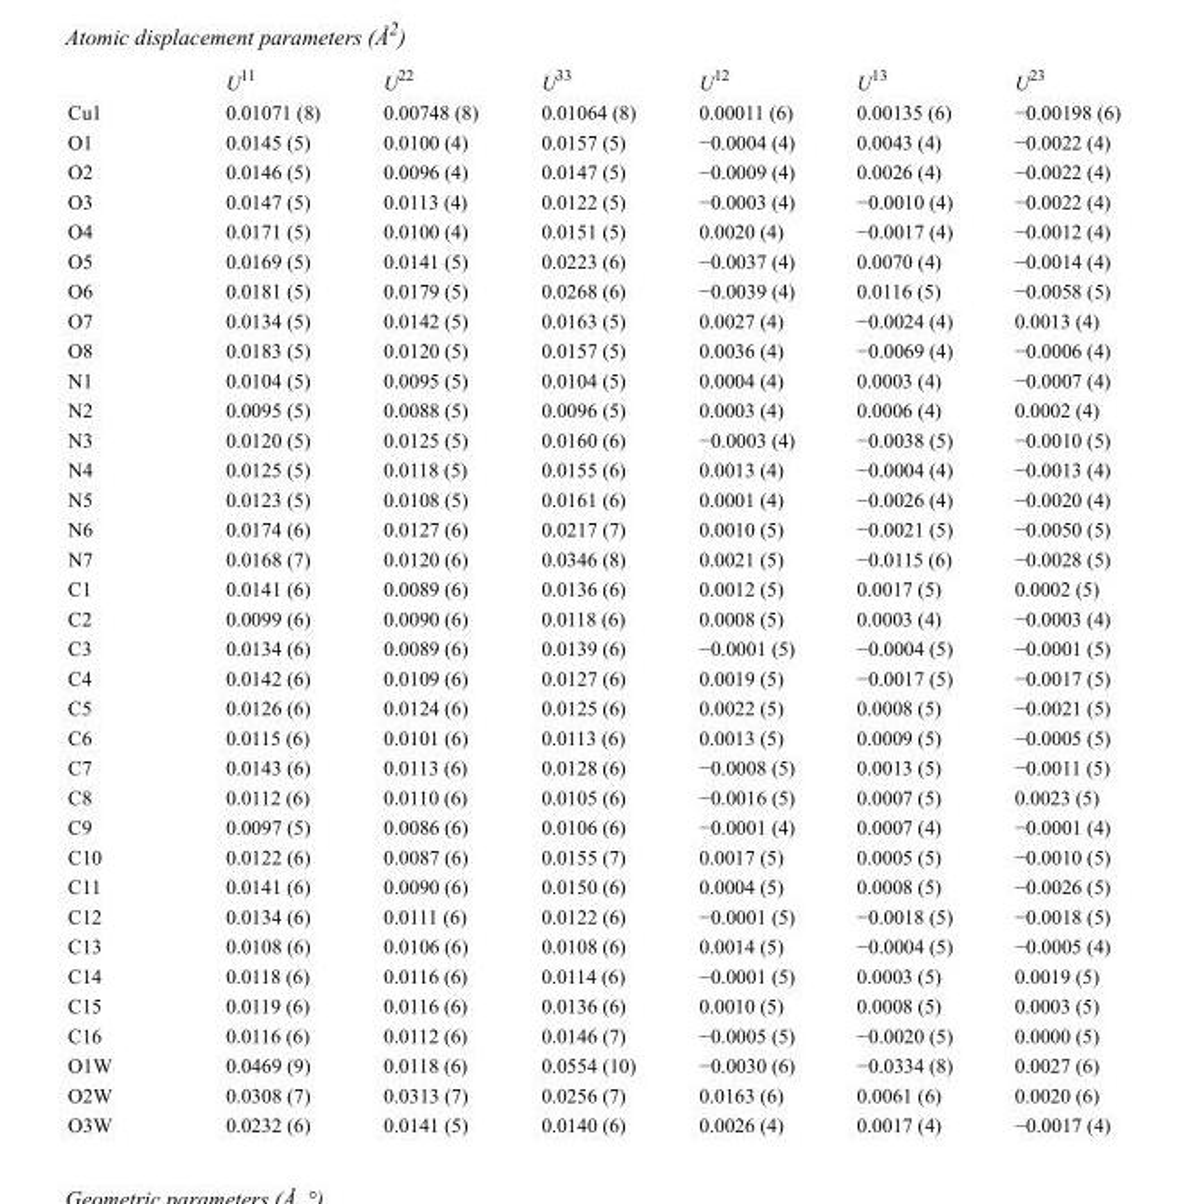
<table><thead><tr><td></td><td>U<sup>11</sup></td><td>U<sup>22</sup></td><td>U<sup>33</sup></td><td>U<sup>12</sup></td><td>U<sup>13</sup></td><td>U<sup>23</sup></td></tr></thead><tbody><tr><td>Cu1</td><td>0.01071 (8)</td><td>0.00748 (8)</td><td>0.01064 (8)</td><td>0.00011 (6)</td><td>0.00135 (6)</td><td>−0.00198 (6)</td></tr><tr><td>O1</td><td>0.0145 (5)</td><td>0.0100 (4)</td><td>0.0157 (5)</td><td>−0.0004 (4)</td><td>0.0043 (4)</td><td>−0.0022 (4)</td></tr><tr><td>O2</td><td>0.0146 (5)</td><td>0.0096 (4)</td><td>0.0147 (5)</td><td>−0.0009 (4)</td><td>0.0026 (4)</td><td>−0.0022 (4)</td></tr><tr><td>O3</td><td>0.0147 (5)</td><td>0.0113 (4)</td><td>0.0122 (5)</td><td>−0.0003 (4)</td><td>−0.0010 (4)</td><td>−0.0022 (4)</td></tr><tr><td>O4</td><td>0.0171 (5)</td><td>0.0100 (4)</td><td>0.0151 (5)</td><td>0.0020 (4)</td><td>−0.0017 (4)</td><td>−0.0012 (4)</td></tr><tr><td>O5</td><td>0.0169 (5)</td><td>0.0141 (5)</td><td>0.0223 (6)</td><td>−0.0037 (4)</td><td>0.0070 (4)</td><td>−0.0014 (4)</td></tr><tr><td>O6</td><td>0.0181 (5)</td><td>0.0179 (5)</td><td>0.0268 (6)</td><td>−0.0039 (4)</td><td>0.0116 (5)</td><td>−0.0058 (5)</td></tr><tr><td>O7</td><td>0.0134 (5)</td><td>0.0142 (5)</td><td>0.0163 (5)</td><td>0.0027 (4)</td><td>−0.0024 (4)</td><td>0.0013 (4)</td></tr><tr><td>O8</td><td>0.0183 (5)</td><td>0.0120 (5)</td><td>0.0157 (5)</td><td>0.0036 (4)</td><td>−0.0069 (4)</td><td>−0.0006 (4)</td></tr><tr><td>N1</td><td>0.0104 (5)</td><td>0.0095 (5)</td><td>0.0104 (5)</td><td>0.0004 (4)</td><td>0.0003 (4)</td><td>−0.0007 (4)</td></tr><tr><td>N2</td><td>0.0095 (5)</td><td>0.0088 (5)</td><td>0.0096 (5)</td><td>0.0003 (4)</td><td>0.0006 (4)</td><td>0.0002 (4)</td></tr><tr><td>N3</td><td>0.0120 (5)</td><td>0.0125 (5)</td><td>0.0160 (6)</td><td>−0.0003 (4)</td><td>−0.0038 (5)</td><td>−0.0010 (5)</td></tr><tr><td>N4</td><td>0.0125 (5)</td><td>0.0118 (5)</td><td>0.0155 (6)</td><td>0.0013 (4)</td><td>−0.0004 (4)</td><td>−0.0013 (4)</td></tr><tr><td>N5</td><td>0.0123 (5)</td><td>0.0108 (5)</td><td>0.0161 (6)</td><td>0.0001 (4)</td><td>−0.0026 (4)</td><td>−0.0020 (4)</td></tr><tr><td>N6</td><td>0.0174 (6)</td><td>0.0127 (6)</td><td>0.0217 (7)</td><td>0.0010 (5)</td><td>−0.0021 (5)</td><td>−0.0050 (5)</td></tr><tr><td>N7</td><td>0.0168 (7)</td><td>0.0120 (6)</td><td>0.0346 (8)</td><td>0.0021 (5)</td><td>−0.0115 (6)</td><td>−0.0028 (5)</td></tr><tr><td>C1</td><td>0.0141 (6)</td><td>0.0089 (6)</td><td>0.0136 (6)</td><td>0.0012 (5)</td><td>0.0017 (5)</td><td>0.0002 (5)</td></tr><tr><td>C2</td><td>0.0099 (6)</td><td>0.0090 (6)</td><td>0.0118 (6)</td><td>0.0008 (5)</td><td>0.0003 (4)</td><td>−0.0003 (4)</td></tr><tr><td>C3</td><td>0.0134 (6)</td><td>0.0089 (6)</td><td>0.0139 (6)</td><td>−0.0001 (5)</td><td>−0.0004 (5)</td><td>−0.0001 (5)</td></tr><tr><td>C4</td><td>0.0142 (6)</td><td>0.0109 (6)</td><td>0.0127 (6)</td><td>0.0019 (5)</td><td>−0.0017 (5)</td><td>−0.0017 (5)</td></tr><tr><td>C5</td><td>0.0126 (6)</td><td>0.0124 (6)</td><td>0.0125 (6)</td><td>0.0022 (5)</td><td>0.0008 (5)</td><td>−0.0021 (5)</td></tr><tr><td>C6</td><td>0.0115 (6)</td><td>0.0101 (6)</td><td>0.0113 (6)</td><td>0.0013 (5)</td><td>0.0009 (5)</td><td>−0.0005 (5)</td></tr><tr><td>C7</td><td>0.0143 (6)</td><td>0.0113 (6)</td><td>0.0128 (6)</td><td>−0.0008 (5)</td><td>0.0013 (5)</td><td>−0.0011 (5)</td></tr><tr><td>C8</td><td>0.0112 (6)</td><td>0.0110 (6)</td><td>0.0105 (6)</td><td>−0.0016 (5)</td><td>0.0007 (5)</td><td>0.0023 (5)</td></tr><tr><td>C9</td><td>0.0097 (5)</td><td>0.0086 (6)</td><td>0.0106 (6)</td><td>−0.0001 (4)</td><td>0.0007 (4)</td><td>−0.0001 (4)</td></tr><tr><td>C10</td><td>0.0122 (6)</td><td>0.0087 (6)</td><td>0.0155 (7)</td><td>0.0017 (5)</td><td>0.0005 (5)</td><td>−0.0010 (5)</td></tr><tr><td>C11</td><td>0.0141 (6)</td><td>0.0090 (6)</td><td>0.0150 (6)</td><td>0.0004 (5)</td><td>0.0008 (5)</td><td>−0.0026 (5)</td></tr><tr><td>C12</td><td>0.0134 (6)</td><td>0.0111 (6)</td><td>0.0122 (6)</td><td>−0.0001 (5)</td><td>−0.0018 (5)</td><td>−0.0018 (5)</td></tr><tr><td>C13</td><td>0.0108 (6)</td><td>0.0106 (6)</td><td>0.0108 (6)</td><td>0.0014 (5)</td><td>−0.0004 (5)</td><td>−0.0005 (4)</td></tr><tr><td>C14</td><td>0.0118 (6)</td><td>0.0116 (6)</td><td>0.0114 (6)</td><td>−0.0001 (5)</td><td>0.0003 (5)</td><td>0.0019 (5)</td></tr><tr><td>C15</td><td>0.0119 (6)</td><td>0.0116 (6)</td><td>0.0136 (6)</td><td>0.0010 (5)</td><td>0.0008 (5)</td><td>0.0003 (5)</td></tr><tr><td>C16</td><td>0.0116 (6)</td><td>0.0112 (6)</td><td>0.0146 (7)</td><td>−0.0005 (5)</td><td>−0.0020 (5)</td><td>0.0000 (5)</td></tr><tr><td>O1W</td><td>0.0469 (9)</td><td>0.0118 (6)</td><td>0.0554 (10)</td><td>−0.0030 (6)</td><td>−0.0334 (8)</td><td>0.0027 (6)</td></tr><tr><td>O2W</td><td>0.0308 (7)</td><td>0.0313 (7)</td><td>0.0256 (7)</td><td>0.0163 (6)</td><td>0.0061 (6)</td><td>0.0020 (6)</td></tr><tr><td>O3W</td><td>0.0232 (6)</td><td>0.0141 (5)</td><td>0.0140 (6)</td><td>0.0026 (4)</td><td>0.0017 (4)</td><td>−0.0017 (4)</td></tr></tbody></table>